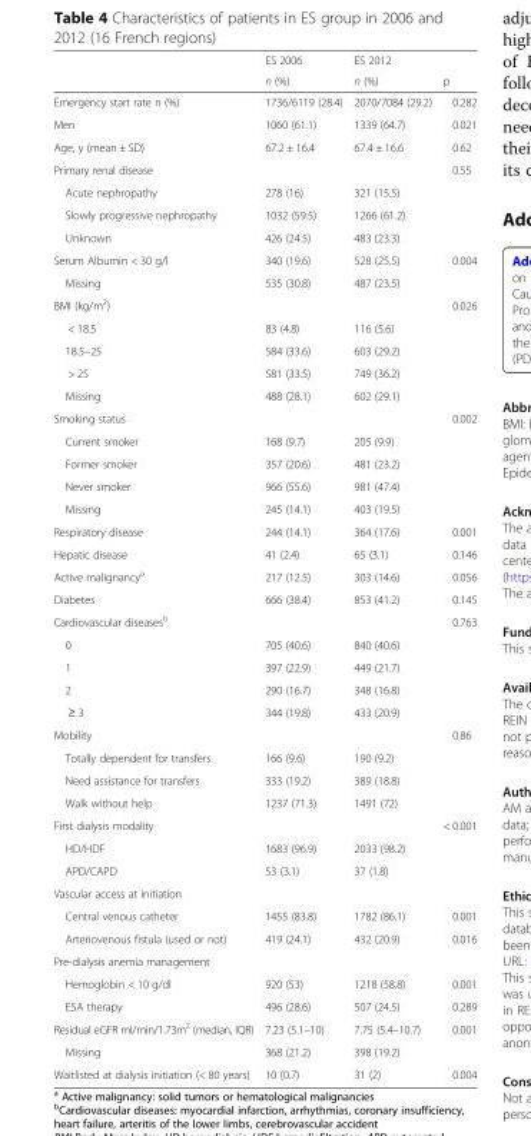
<table><thead><tr><td rowspan="2"></td><td rowspan="2">ES 2006 n (%)</td><td rowspan="2">ES 2012 n (%)</td><td rowspan="2">p</td></tr><tr></tr></thead><tbody><tr><td>Emergency start rate n (%)</td><td>1736/6119 (28.4)</td><td>2070/7084 (29.2)</td><td>0.282</td></tr><tr><td>Men</td><td>1060 (61.1)</td><td>1339 (64.7)</td><td>0.021</td></tr><tr><td>Age, y (mean ± SD)</td><td>67.2 ± 16.4</td><td>67.4 ± 16.6</td><td>0.62</td></tr><tr><td colspan="3">Primary renal disease</td><td>0.55</td></tr><tr><td>Acute nephropathy</td><td>278 (16)</td><td>321 (15.5)</td><td></td></tr><tr><td>Slowly progressive nephropathy</td><td>1032 (59.5)</td><td>1266 (61.2)</td><td></td></tr><tr><td>Unknown</td><td>426 (24.5)</td><td>483 (23.3)</td><td></td></tr><tr><td>Serum Albumin &lt; 30 g/l</td><td>340 (19.6)</td><td>528 (25.5)</td><td>0.004</td></tr><tr><td>Missing</td><td>535 (30.8)</td><td>487 (23.5)</td><td></td></tr><tr><td colspan="3">BMI (kg/m<sup>2</sup>)</td><td>0.026</td></tr><tr><td>&lt; 18.5</td><td>83 (4.8)</td><td>116 (5.6)</td><td></td></tr><tr><td>18.5–25</td><td>584 (33.6)</td><td>603 (29.2)</td><td></td></tr><tr><td>&gt; 25</td><td>581 (33.5)</td><td>749 (36.2)</td><td></td></tr><tr><td>Missing</td><td>488 (28.1)</td><td>602 (29.1)</td><td></td></tr><tr><td colspan="3">Smoking status</td><td>0.002</td></tr><tr><td>Current smoker</td><td>168 (9.7)</td><td>205 (9.9)</td><td></td></tr><tr><td>Former smoker</td><td>357 (20.6)</td><td>481 (23.2)</td><td></td></tr><tr><td>Never smoker</td><td>966 (55.6)</td><td>981 (47.4)</td><td></td></tr><tr><td>Missing</td><td>245 (14.1)</td><td>403 (19.5)</td><td></td></tr><tr><td>Respiratory disease</td><td>244 (14.1)</td><td>364 (17.6)</td><td>0.001</td></tr><tr><td>Hepatic disease</td><td>41 (2.4)</td><td>65 (3.1)</td><td>0.146</td></tr><tr><td>Active malignancy<sup>a</sup></td><td>217 (12.5)</td><td>303 (14.6)</td><td>0.056</td></tr><tr><td>Diabetes</td><td>666 (38.4)</td><td>853 (41.2)</td><td>0.145</td></tr><tr><td colspan="3">Cardiovascular diseases<sup>b</sup></td><td>0.763</td></tr><tr><td>0</td><td>705 (40.6)</td><td>840 (40.6)</td><td></td></tr><tr><td>1</td><td>397 (22.9)</td><td>449 (21.7)</td><td></td></tr><tr><td>2</td><td>290 (16.7)</td><td>348 (16.8)</td><td></td></tr><tr><td>≥ 3</td><td>344 (19.8)</td><td>433 (20.9)</td><td></td></tr><tr><td colspan="3">Mobility</td><td>0.86</td></tr><tr><td>Totally dependent for transfers</td><td>166 (9.6)</td><td>190 (9.2)</td><td></td></tr><tr><td>Need assistance for transfers</td><td>333 (19.2)</td><td>389 (18.8)</td><td></td></tr><tr><td>Walk without help</td><td>1237 (71.3)</td><td>1491 (72)</td><td></td></tr><tr><td colspan="3">First dialysis modality</td><td>&lt; 0.001</td></tr><tr><td>HD/HDF</td><td>1683 (96.9)</td><td>2033 (98.2)</td><td></td></tr><tr><td>APD/CAPD</td><td>53 (3.1)</td><td>37 (1.8)</td><td></td></tr><tr><td colspan="4">Vascular access at initiation</td></tr><tr><td>Central venous catheter</td><td>1455 (83.8)</td><td>1782 (86.1)</td><td>0.001</td></tr><tr><td>Arteriovenous fistula (used or not)</td><td>419 (24.1)</td><td>432 (20.9)</td><td>0.016</td></tr><tr><td colspan="4">Pre-dialysis anemia management</td></tr><tr><td>Hemoglobin &lt; 10 g/dl</td><td>920 (53)</td><td>1218 (58.8)</td><td>0.001</td></tr><tr><td>ESA therapy</td><td>496 (28.6)</td><td>507 (24.5)</td><td>0.289</td></tr><tr><td>Residual eGFR ml/min/1.73m<sup>2</sup> (median, IQR)</td><td>7.23 (5.1–10)</td><td>7.75 (5.4–10.7)</td><td>0.001</td></tr><tr><td>Missing</td><td>368 (21.2)</td><td>398 (19.2)</td><td></td></tr><tr><td>Waitlisted at dialysis initiation (&lt; 80 years)</td><td>10 (0.7)</td><td>31 (2)</td><td>0.004</td></tr></tbody></table>